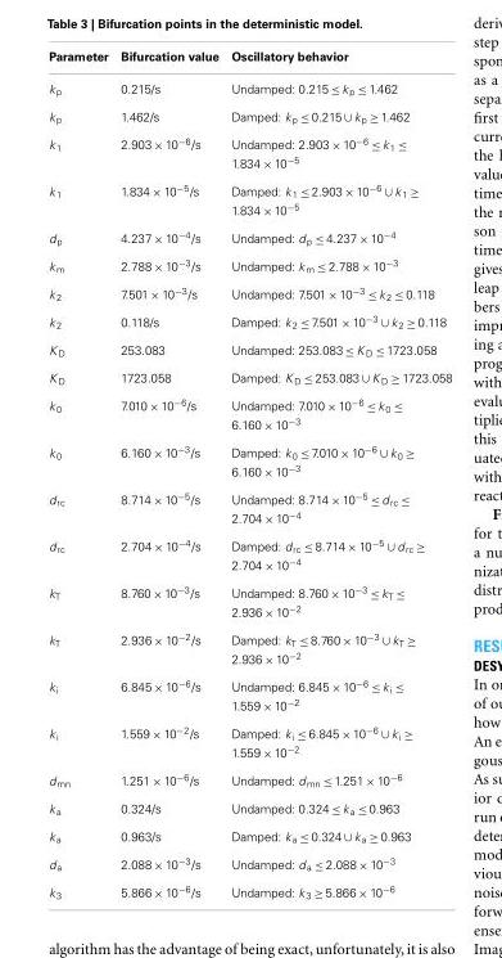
<table><thead><tr><td>Parameter</td><td>Bifurcation value</td><td>Oscillatory behavior</td></tr></thead><tbody><tr><td>k<sub>p</sub></td><td>0.215/s</td><td>Undamped: 0.215 ≤ k<sub>p</sub> ≤ 1.462</td></tr><tr><td>k<sub>p</sub></td><td>1.462/s</td><td>Damped: k<sub>p</sub> ≤ 0.215 ∪ k<sub>p</sub> ≥ 1.462</td></tr><tr><td>k<sub>1</sub></td><td>2.903 × 10<sup>−6</sup>/s</td><td>Undamped: 2.903 × 10<sup>−6</sup> ≤ k<sub>1</sub> ≤ 1.834 × 10<sup>−5</sup></td></tr><tr><td>k<sub>1</sub></td><td>1.834 × 10<sup>−5</sup>/s</td><td>Damped: k<sub>1</sub> ≤ 2.903 × 10<sup>−6</sup> ∪ k<sub>1</sub> ≥ 1.834 × 10<sup>−5</sup></td></tr><tr><td>d<sub>p</sub></td><td>4.237 × 10<sup>−4</sup>/s</td><td>Undamped: d <sub>p</sub> ≤ 4.237 × 10<sup>−4</sup></td></tr><tr><td>k<sub>m</sub></td><td>2.788 × 10<sup>−3</sup>/s</td><td>Undamped: k<sub>m</sub> ≤ 2.788 × 10<sup>−3</sup></td></tr><tr><td>k<sub>2</sub></td><td>7.501 × 10<sup>−3</sup>/s</td><td>Undamped: 7.501 × 10<sup>−3</sup> ≤ k<sub>2</sub> ≤ 0.118</td></tr><tr><td>k<sub>2</sub></td><td>0.118/s</td><td>Damped: k<sub>2</sub> ≤ 7.501 × 10<sup>−3</sup> ∪ k<sub>2</sub> ≥ 0.118</td></tr><tr><td>K <sub>D</sub></td><td>253.083</td><td>Undamped: 253.083 ≤ K <sub>D</sub> ≤ 1723.058</td></tr><tr><td>K <sub>D</sub></td><td>1723.058</td><td>Damped: K <sub>D</sub> ≤ 253.083 ∪ K <sub>D</sub> ≥ 1723.058</td></tr><tr><td>k<sub>0</sub></td><td>7.010 × 10<sup>−6</sup>/s</td><td>Undamped: 7.010 × 10<sup>−6</sup> ≤ k<sub>0</sub> ≤ 6.160 × 10<sup>−3</sup></td></tr><tr><td>k<sub>0</sub></td><td>6.160 × 10<sup>−3</sup>/s</td><td>Damped: k<sub>0</sub> ≤ 7.010 × 10<sup>−6</sup> ∪ k<sub>0</sub> ≥ 6.160 × 10<sup>−3</sup></td></tr><tr><td>d<sub>rc</sub></td><td>8.714 × 10<sup>−5</sup>/s</td><td>Undamped: 8.714 × 10<sup>−5</sup> ≤ d <sub>rc</sub> ≤ 2.704 × 10<sup>−4</sup></td></tr><tr><td>d<sub>rc</sub></td><td>2.704 × 10<sup>−4</sup>/s</td><td>Damped: d<sub>rc</sub> ≤ 8.714 × 10<sup>−5</sup> ∪ d<sub>rc</sub> ≥ 2.704 × 10<sup>−4</sup></td></tr><tr><td>k<sub>T</sub></td><td>8.760 × 10<sup>−3</sup>/s</td><td>Undamped: 8.760 × 10<sup>−3</sup> ≤ k<sub>T</sub> ≤ 2.936 × 10<sup>−2</sup></td></tr><tr><td>k<sub>T</sub></td><td>2.936 × 10<sup>−2</sup>/s</td><td>Damped: k<sub>T</sub> ≤ 8.760 × 10<sup>−3</sup> ∪ k<sub>T</sub> ≥ 2.936 × 10<sup>−2</sup></td></tr><tr><td>k<sub>i</sub></td><td>6.845 × 10<sup>−6</sup>/s</td><td>Undamped: 6.845 × 10<sup>−6</sup> ≤ k<sub>i</sub> ≤ 1.559 × 10<sup>−2</sup></td></tr><tr><td>k<sub>i</sub></td><td>1.559 × 10<sup>−2</sup>/s</td><td>Damped: k<sub>i</sub> ≤ 6.845 × 10<sup>−6</sup> ∪ k<sub>i</sub> ≥ 1.559 × 10<sup>−2</sup></td></tr><tr><td>d<sub>mn</sub></td><td>1.251 × 10<sup>−6</sup>/s</td><td>Undamped: d <sub>mn</sub> ≤ 1.251 × 10<sup>−6</sup></td></tr><tr><td>k<sub>a</sub></td><td>0.324/s</td><td>Undamped: 0.324 ≤ k<sub>a</sub> ≤ 0.963</td></tr><tr><td>k<sub>a</sub></td><td>0.963/s</td><td>Damped: k<sub>a</sub> ≤ 0.324 ∪ k<sub>a</sub> ≥ 0.963</td></tr><tr><td>d<sub>a</sub></td><td>2.088 × 10<sup>−3</sup>/s</td><td>Undamped: d<sub>a</sub> ≤ 2.088 × 10<sup>−3</sup></td></tr><tr><td>k<sub>3</sub></td><td>5.866 × 10<sup>−6</sup>/s</td><td>Undamped: k<sub>3</sub> ≥ 5.866 × 10<sup>−6</sup></td></tr></tbody></table>